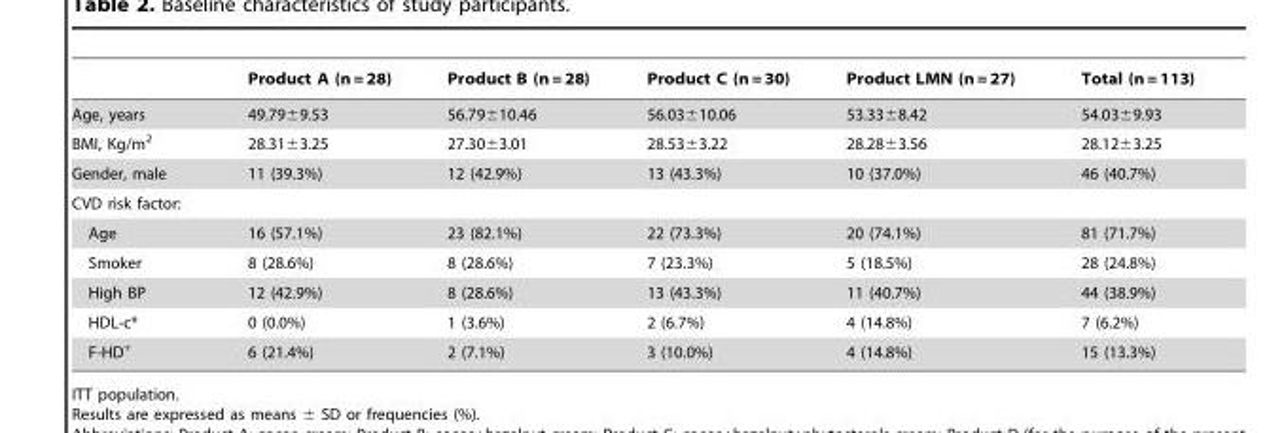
<table><thead><tr><td></td><td>Product A (n = 28)</td><td>Product B (n = 28)</td><td>Product C (n = 30)</td><td>Product LMN (n = 27)</td><td>Total (n = 113)</td></tr></thead><tbody><tr><td>Age, years</td><td>49.79±9.53</td><td>56.79±10.46</td><td>56.03±10.06</td><td>53.33±8.42</td><td>54.03±9.93</td></tr><tr><td>BMI, Kg/m<sup>2</sup></td><td>28.31±3.25</td><td>27.30±3.01</td><td>28.53±3.22</td><td>28.28±3.56</td><td>28.12±3.25</td></tr><tr><td>Gender, male</td><td>11 (39.3%)</td><td>12 (42.9%)</td><td>13 (43.3%)</td><td>10 (37.0%)</td><td>46 (40.7%)</td></tr><tr><td colspan="6">CVD risk factor:</td></tr><tr><td>Age</td><td>16 (57.1%)</td><td>23 (82.1%)</td><td>22 (73.3%)</td><td>20 (74.1%)</td><td>81 (71.7%)</td></tr><tr><td>Smoker</td><td>8 (28.6%)</td><td>8 (28.6%)</td><td>7 (23.3%)</td><td>5 (18.5%)</td><td>28 (24.8%)</td></tr><tr><td>High BP</td><td>12 (42.9%)</td><td>8 (28.6%)</td><td>13 (43.3%)</td><td>11 (40.7%)</td><td>44 (38.9%)</td></tr><tr><td>HDL-c*</td><td>0 (0.0%)</td><td>1 (3.6%)</td><td>2 (6.7%)</td><td>4 (14.8%)</td><td>7 (6.2%)</td></tr><tr><td>F-HD<sup>+</sup></td><td>6 (21.4%)</td><td>2 (7.1%)</td><td>3 (10.0%)</td><td>4 (14.8%)</td><td>15 (13.3%)</td></tr></tbody></table>